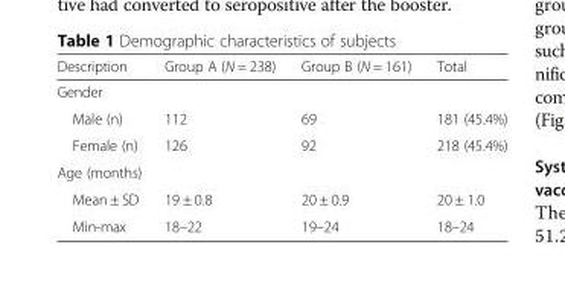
<table><thead><tr><td>Description</td><td>Group A (N = 238)</td><td>Group B (N = 161)</td><td>Total</td></tr></thead><tbody><tr><td colspan="4">Gender</td></tr><tr><td>Male (n)</td><td>112</td><td>69</td><td>181 (45.4%)</td></tr><tr><td>Female (n)</td><td>126</td><td>92</td><td>218 (45.4%)</td></tr><tr><td colspan="4">Age (months)</td></tr><tr><td>Mean ± SD</td><td>19 ± 0.8</td><td>20 ± 0.9</td><td>20 ± 1.0</td></tr><tr><td>Min-max</td><td>18–22</td><td>19–24</td><td>18–24</td></tr></tbody></table>